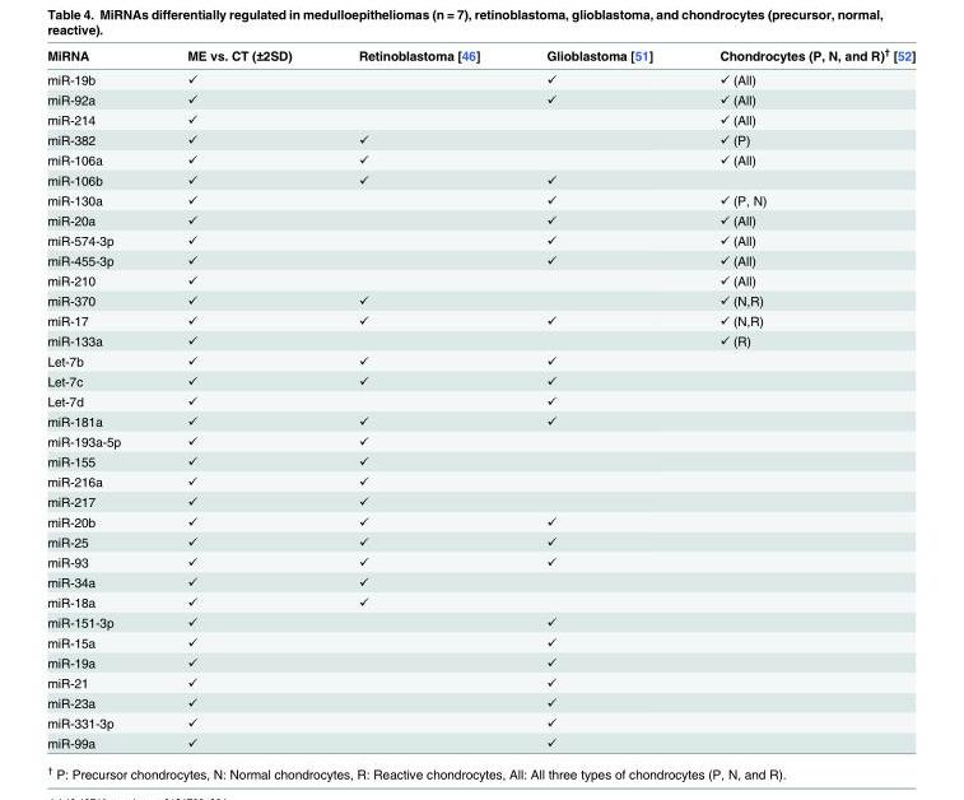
<table><thead><tr><td>MiRNA</td><td>ME vs. CT (±2SD)</td><td>Retinoblastoma [46]</td><td>Glioblastoma [51]</td><td>Chondrocytes (P, N, and R)<sup>†</sup> [52]</td></tr></thead><tbody><tr><td>miR-19b</td><td>✓</td><td></td><td>✓</td><td>✓ (All)</td></tr><tr><td>miR-92a</td><td>✓</td><td></td><td>✓</td><td>✓ (All)</td></tr><tr><td>miR-214</td><td>✓</td><td></td><td></td><td>✓ (All)</td></tr><tr><td>miR-382</td><td>✓</td><td>✓</td><td></td><td>✓ (P)</td></tr><tr><td>miR-106a</td><td>✓</td><td>✓</td><td></td><td>✓ (All)</td></tr><tr><td>miR-106b</td><td>✓</td><td>✓</td><td>✓</td><td></td></tr><tr><td>miR-130a</td><td>✓</td><td></td><td>✓</td><td>✓ (P, N)</td></tr><tr><td>miR-20a</td><td>✓</td><td></td><td>✓</td><td>✓ (All)</td></tr><tr><td>miR-574-3p</td><td>✓</td><td></td><td>✓</td><td>✓ (All)</td></tr><tr><td>miR-455-3p</td><td>✓</td><td></td><td>✓</td><td>✓ (All)</td></tr><tr><td>miR-210</td><td>✓</td><td></td><td></td><td>✓ (All)</td></tr><tr><td>miR-370</td><td>✓</td><td>✓</td><td></td><td>✓ (N,R)</td></tr><tr><td>miR-17</td><td>✓</td><td>✓</td><td>✓</td><td>✓ (N,R)</td></tr><tr><td>miR-133a</td><td>✓</td><td></td><td></td><td>✓ (R)</td></tr><tr><td>Let-7b</td><td>✓</td><td>✓</td><td>✓</td><td></td></tr><tr><td>Let-7c</td><td>✓</td><td>✓</td><td>✓</td><td></td></tr><tr><td>Let-7d</td><td>✓</td><td></td><td>✓</td><td></td></tr><tr><td>miR-181a</td><td>✓</td><td>✓</td><td>✓</td><td></td></tr><tr><td>miR-193a-5p</td><td>✓</td><td>✓</td><td></td><td></td></tr><tr><td>miR-155</td><td>✓</td><td>✓</td><td></td><td></td></tr><tr><td>miR-216a</td><td>✓</td><td>✓</td><td></td><td></td></tr><tr><td>miR-217</td><td>✓</td><td>✓</td><td></td><td></td></tr><tr><td>miR-20b</td><td>✓</td><td>✓</td><td>✓</td><td></td></tr><tr><td>miR-25</td><td>✓</td><td>✓</td><td>✓</td><td></td></tr><tr><td>miR-93</td><td>✓</td><td>✓</td><td>✓</td><td></td></tr><tr><td>miR-34a</td><td>✓</td><td>✓</td><td></td><td></td></tr><tr><td>miR-18a</td><td>✓</td><td>✓</td><td></td><td></td></tr><tr><td>miR-151-3p</td><td>✓</td><td></td><td>✓</td><td></td></tr><tr><td>miR-15a</td><td>✓</td><td></td><td>✓</td><td></td></tr><tr><td>miR-19a</td><td>✓</td><td></td><td>✓</td><td></td></tr><tr><td>miR-21</td><td>✓</td><td></td><td>✓</td><td></td></tr><tr><td>miR-23a</td><td>✓</td><td></td><td>✓</td><td></td></tr><tr><td>miR-331-3p</td><td>✓</td><td></td><td>✓</td><td></td></tr><tr><td>miR-99a</td><td>✓</td><td></td><td>✓</td><td></td></tr></tbody></table>